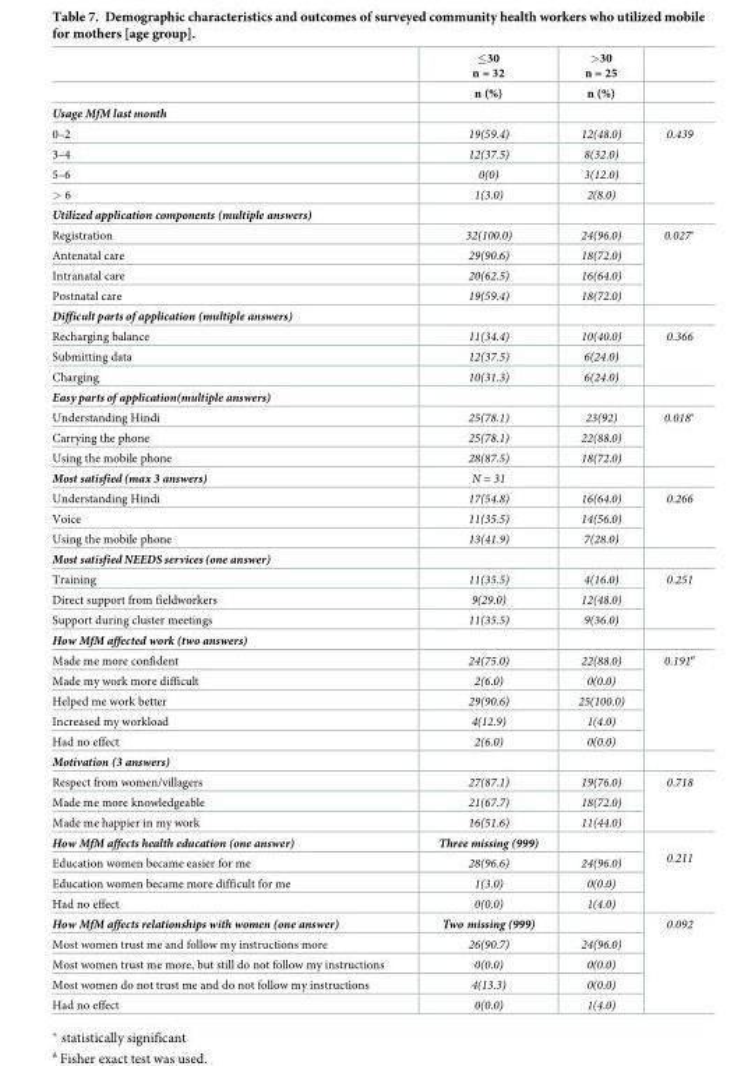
<table><thead><tr><td rowspan="2"></td><td rowspan="2">≤30 n = 32 n (%)</td><td rowspan="2">&gt;30 n = 25 n (%)</td><td rowspan="2"></td></tr><tr></tr></thead><tbody><tr><td colspan="4">Usage MfM last month</td></tr><tr><td>0–2</td><td>19(59.4)</td><td>12(48.0)</td><td rowspan="4">0.439</td></tr><tr><td>3–4</td><td>12(37.5)</td><td>8(32.0)</td></tr><tr><td>5–6</td><td>0(0)</td><td>3(12.0)</td></tr><tr><td>&gt; 6</td><td>1(3.0)</td><td>2(8.0)</td></tr><tr><td colspan="4">Utilized application components (multiple answers)</td></tr><tr><td>Registration</td><td>32(100.0)</td><td>24(96.0)</td><td rowspan="4">0.027*</td></tr><tr><td>Antenatal care</td><td>29(90.6)</td><td>18(72.0)</td></tr><tr><td>Intranatal care</td><td>20(62.5)</td><td>16(64.0)</td></tr><tr><td>Postnatal care</td><td>19(59.4)</td><td>18(72.0)</td></tr><tr><td colspan="4">Difficult parts of application (multiple answers)</td></tr><tr><td>Recharging balance</td><td>11(34.4)</td><td>10(40.0)</td><td rowspan="3">0.366</td></tr><tr><td>Submitting data</td><td>12(37.5)</td><td>6(24.0)</td></tr><tr><td>Charging</td><td>10(31.3)</td><td>6(24.0)</td></tr><tr><td colspan="4">Easy parts of application(multiple answers)</td></tr><tr><td>Understanding Hindi</td><td>25(78.1)</td><td>23(92)</td><td rowspan="3">0.018*</td></tr><tr><td>Carrying the phone</td><td>25(78.1)</td><td>22(88.0)</td></tr><tr><td>Using the mobile phone</td><td>28(87.5)</td><td>18(72.0)</td></tr><tr><td>Most satisfied (max 3 answers)</td><td>N = 31</td><td></td><td></td></tr><tr><td>Understanding Hindi</td><td>17(54.8)</td><td>16(64.0)</td><td rowspan="3">0.266</td></tr><tr><td>Voice</td><td>11(35.5)</td><td>14(56.0)</td></tr><tr><td>Using the mobile phone</td><td>13(41.9)</td><td>7(28.0)</td></tr><tr><td colspan="4">Most satisfied NEEDS services(one answer)</td></tr><tr><td>Training</td><td>11(35.5)</td><td>4(16.0)</td><td rowspan="3">0.251</td></tr><tr><td>Direct support from fieldworkers</td><td>9(29.0)</td><td>12(48.0)</td></tr><tr><td>Support during cluster meetings</td><td>11(35.5)</td><td>9(36.0)</td></tr><tr><td colspan="4">How MfM affected work (two answers)</td></tr><tr><td>Made me more confident</td><td>24(75.0)</td><td>22(88.0)</td><td rowspan="5">0.191<sup>a</sup></td></tr><tr><td>Made my work more difficult</td><td>2(6.0)</td><td>0(0.0)</td></tr><tr><td>Helped me work better</td><td>29(90.6)</td><td>25(100.0)</td></tr><tr><td>Increased my workload</td><td>4(12.9)</td><td>1(4.0)</td></tr><tr><td>Had no effect</td><td>2(6.0)</td><td>0(0.0)</td></tr><tr><td colspan="4">Motivation (3 answers)</td></tr><tr><td>Respect from women/villagers</td><td>27(87.1)</td><td>19(76.0)</td><td rowspan="3">0.718</td></tr><tr><td>Made me more knowledgeable</td><td>21(67.7)</td><td>18(72.0)</td></tr><tr><td>Made me happier in my work</td><td>16(51.6)</td><td>11(44.0)</td></tr><tr><td>How MfM affects health education (one answer)</td><td>Three missing (999)</td><td></td><td rowspan="4">0.211</td></tr><tr><td>Education women became easier for me</td><td>28(96.6)</td><td>24(96.0)</td></tr><tr><td>Education women became more difficult for me</td><td>1(3.0)</td><td>0(0.0)</td></tr><tr><td>Had no effect</td><td>0(0.0)</td><td>1(4.0)</td></tr><tr><td>How MfM affects relationships with women (one answer)</td><td>Two missing (999)</td><td></td><td rowspan="5">0.092</td></tr><tr><td>Most women trust me and follow my instructions more</td><td>26(90.7)</td><td>24(96.0)</td></tr><tr><td>Most women trust me more, but still do not follow my instructions</td><td>0(0.0)</td><td>0(0.0)</td></tr><tr><td>Most women do not trust me and do not follow my instructions</td><td>4(13.3)</td><td>0(0.0)</td></tr><tr><td>Had no effect</td><td>0(0.0)</td><td>1(4.0)</td></tr></tbody></table>